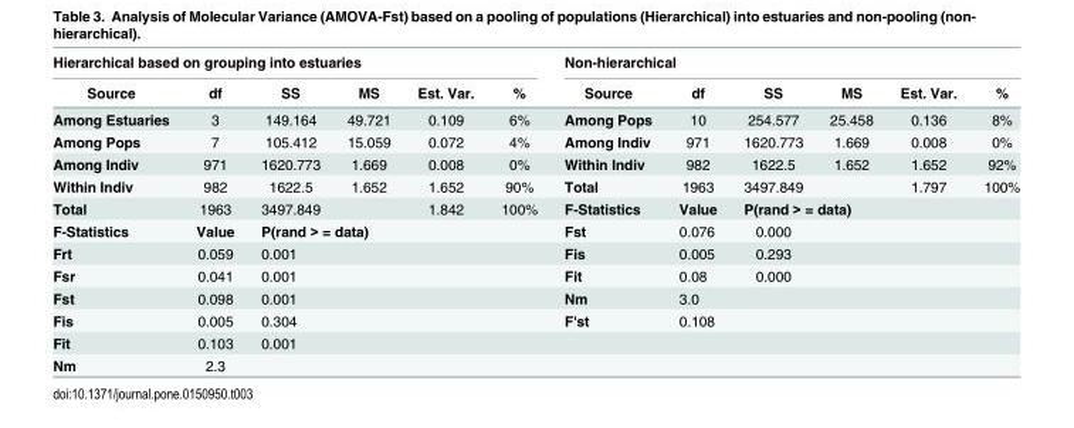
<table><thead><tr><td colspan="6">Hierarchical based on grouping into estuaries</td><td colspan="6">Non-hierarchical</td></tr><tr><td>Source</td><td>df</td><td>SS</td><td>MS</td><td>Est. Var.</td><td>%</td><td>Source</td><td>df</td><td>SS</td><td>MS</td><td>Est. Var.</td><td>%</td></tr></thead><tbody><tr><td>Among Estuaries</td><td>3</td><td>149.164</td><td>49.721</td><td>0.109</td><td>6%</td><td>Among Pops</td><td>10</td><td>254.577</td><td>25.458</td><td>0.136</td><td>8%</td></tr><tr><td>Among Pops</td><td>7</td><td>105.412</td><td>15.059</td><td>0.072</td><td>4%</td><td>Among Indiv</td><td>971</td><td>1620.773</td><td>1.669</td><td>0.008</td><td>0%</td></tr><tr><td>Among Indiv</td><td>971</td><td>1620.773</td><td>1.669</td><td>0.008</td><td>0%</td><td>Within Indiv</td><td>982</td><td>1622.5</td><td>1.652</td><td>1.652</td><td>92%</td></tr><tr><td>Within Indiv</td><td>982</td><td>1622.5</td><td>1.652</td><td>1.652</td><td>90%</td><td>Total</td><td>1963</td><td>3497.849</td><td></td><td>1.797</td><td>100%</td></tr><tr><td>Total</td><td>1963</td><td>3497.849</td><td></td><td>1.842</td><td>100%</td><td>F-Statistics</td><td>Value</td><td colspan="2">P(rand &gt; = data)</td><td></td><td></td></tr><tr><td>F-Statistics</td><td>Value</td><td colspan="4">P(rand &gt; = data)</td><td>Fst</td><td>0.076</td><td>0.000</td><td></td><td></td><td></td></tr><tr><td>Frt</td><td>0.059</td><td>0.001</td><td></td><td></td><td></td><td>Fis</td><td>0.005</td><td>0.293</td><td></td><td></td><td></td></tr><tr><td>Fsr</td><td>0.041</td><td>0.001</td><td></td><td></td><td></td><td>Fit</td><td>0.08</td><td>0.000</td><td></td><td></td><td></td></tr><tr><td>Fst</td><td>0.098</td><td>0.001</td><td></td><td></td><td></td><td>Nm</td><td>3.0</td><td></td><td></td><td></td><td></td></tr><tr><td>Fis</td><td>0.005</td><td>0.304</td><td></td><td></td><td></td><td>F&#x27;st</td><td>0.108</td><td></td><td></td><td></td><td></td></tr><tr><td>Fit</td><td>0.103</td><td>0.001</td><td></td><td></td><td></td><td></td><td></td><td></td><td></td><td></td><td></td></tr><tr><td>Nm</td><td>2.3</td><td></td><td></td><td></td><td></td><td></td><td></td><td></td><td></td><td></td><td></td></tr></tbody></table>